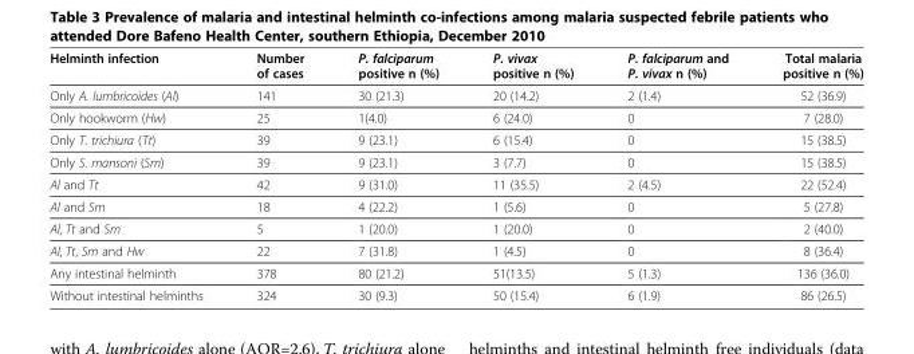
<table><thead><tr><td>Helminth infection</td><td>Number of cases</td><td>P. falciparum positive n (%)</td><td>P. vivax positive n (%)</td><td>P. falciparum and P. vivax n (%)</td><td>Total malaria positive n (%)</td></tr></thead><tbody><tr><td>Only A. lumbricoides (Al)</td><td>141</td><td>30 (21.3)</td><td>20 (14.2)</td><td>2 (1.4)</td><td>52 (36.9)</td></tr><tr><td>Only hookworm (Hw)</td><td>25</td><td>1(4.0)</td><td>6 (24.0)</td><td>0</td><td>7 (28.0)</td></tr><tr><td>Only T. trichiura (Tt)</td><td>39</td><td>9 (23.1)</td><td>6 (15.4)</td><td>0</td><td>15 (38.5)</td></tr><tr><td>Only S. mansoni (Sm)</td><td>39</td><td>9 (23.1)</td><td>3 (7.7)</td><td>0</td><td>15 (38.5)</td></tr><tr><td>Al and Tt</td><td>42</td><td>9 (31.0)</td><td>11 (35.5)</td><td>2 (4.5)</td><td>22 (52.4)</td></tr><tr><td>Al and Sm</td><td>18</td><td>4 (22.2)</td><td>1 (5.6)</td><td>0</td><td>5 (27.8)</td></tr><tr><td>Al, Tt and Sm</td><td>5</td><td>1 (20.0)</td><td>1 (20.0)</td><td>0</td><td>2 (40.0)</td></tr><tr><td>Al, Tt, Sm and Hw</td><td>22</td><td>7 (31.8)</td><td>1 (4.5)</td><td>0</td><td>8 (36.4)</td></tr><tr><td>Any intestinal helminth</td><td>378</td><td>80 (21.2)</td><td>51(13.5)</td><td>5 (1.3)</td><td>136 (36.0)</td></tr><tr><td>Without intestinal helminths</td><td>324</td><td>30 (9.3)</td><td>50 (15.4)</td><td>6 (1.9)</td><td>86 (26.5)</td></tr></tbody></table>